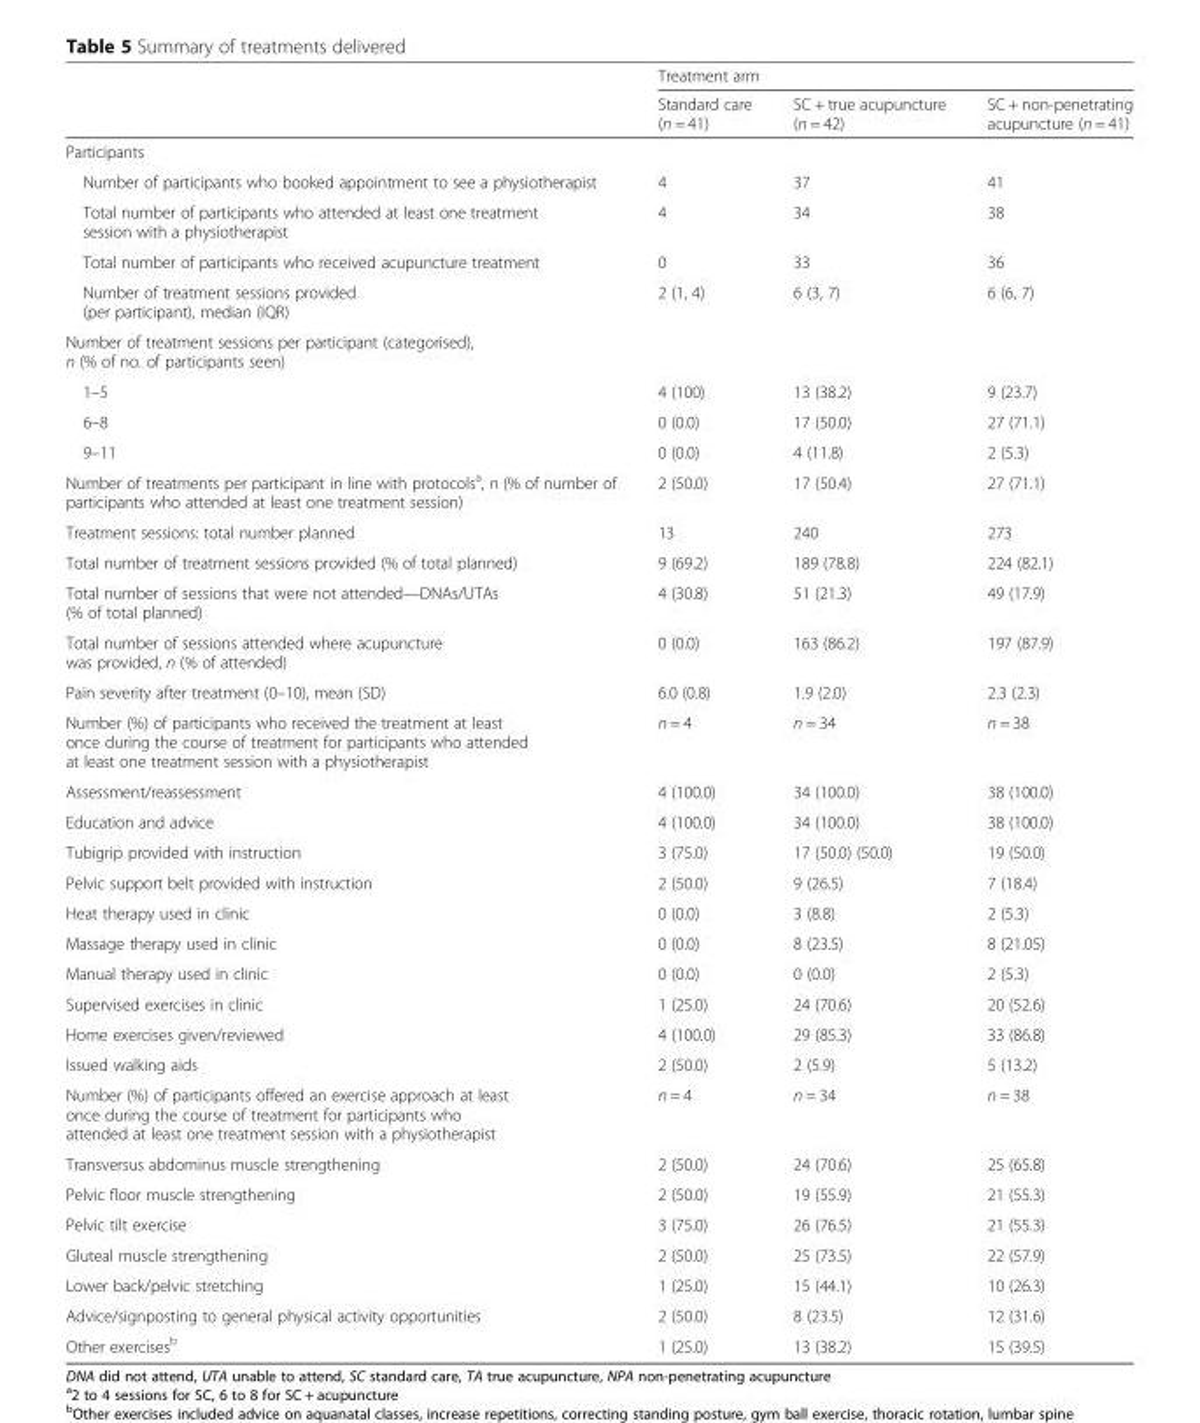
<table><thead><tr><td rowspan="2"></td><td colspan="3">Treatment arm</td></tr><tr><td>Standard care (n = 41)</td><td>SC + true acupuncture (n = 42)</td><td>SC + non-penetrating acupuncture (n = 41)</td></tr></thead><tbody><tr><td colspan="4">Participants</td></tr><tr><td>Number of participants who booked appointment to see a physiotherapist</td><td>4</td><td>37</td><td>41</td></tr><tr><td>Total number of participants who attended at least one treatment session with a physiotherapist</td><td>4</td><td>34</td><td>38</td></tr><tr><td>Total number of participants who received acupuncture treatment</td><td>0</td><td>33</td><td>36</td></tr><tr><td>Number of treatment sessions provided (per participant), median (IQR)</td><td>2 (1, 4)</td><td>6 (3, 7)</td><td>6 (6, 7)</td></tr><tr><td colspan="4">Number of treatment sessions per participant (categorised), n (% of no. of participants seen)</td></tr><tr><td>1–5</td><td>4 (100)</td><td>13 (38.2)</td><td>9 (23.7)</td></tr><tr><td>6–8</td><td>0 (0.0)</td><td>17 (50.0)</td><td>27 (71.1)</td></tr><tr><td>9–11</td><td>0 (0.0)</td><td>4 (11.8)</td><td>2 (5.3)</td></tr><tr><td>Number of treatments per participant in line with protocols<sup>a</sup>, n (% of number of participants who attended at least one treatment session)</td><td>2 (50.0)</td><td>17 (50.4)</td><td>27 (71.1)</td></tr><tr><td>Treatment sessions: total number planned</td><td>13</td><td>240</td><td>273</td></tr><tr><td>Total number of treatment sessions provided (% of total planned)</td><td>9 (69.2)</td><td>189 (78.8)</td><td>224 (82.1)</td></tr><tr><td>Total number of sessions that were not attended—DNAs/UTAs (% of total planned)</td><td>4 (30.8)</td><td>51 (21.3)</td><td>49 (17.9)</td></tr><tr><td>Total number of sessions attended where acupuncture was provided, n (% of attended)</td><td>0 (0.0)</td><td>163 (86.2)</td><td>197 (87.9)</td></tr><tr><td>Pain severity after treatment (0–10), mean (SD)</td><td>6.0 (0.8)</td><td>1.9 (2.0)</td><td>2.3 (2.3)</td></tr><tr><td>Number (%) of participants who received the treatment at least once during the course of treatment for participants who attended at least one treatment session with a physiotherapist</td><td>n = 4</td><td>n = 34</td><td>n = 38</td></tr><tr><td>Assessment/reassessment</td><td>4 (100.0)</td><td>34 (100.0)</td><td>38 (100.0)</td></tr><tr><td>Education and advice</td><td>4 (100.0)</td><td>34 (100.0)</td><td>38 (100.0)</td></tr><tr><td>Tubigrip provided with instruction</td><td>3 (75.0)</td><td>17 (50.0) (50.0)</td><td>19 (50.0)</td></tr><tr><td>Pelvic support belt provided with instruction</td><td>2 (50.0)</td><td>9 (26.5)</td><td>7 (18.4)</td></tr><tr><td>Heat therapy used in clinic</td><td>0 (0.0)</td><td>3 (8.8)</td><td>2 (5.3)</td></tr><tr><td>Massage therapy used in clinic</td><td>0 (0.0)</td><td>8 (23.5)</td><td>8 (21.05)</td></tr><tr><td>Manual therapy used in clinic</td><td>0 (0.0)</td><td>0 (0.0)</td><td>2 (5.3)</td></tr><tr><td>Supervised exercises in clinic</td><td>1 (25.0)</td><td>24 (70.6)</td><td>20 (52.6)</td></tr><tr><td>Home exercises given/reviewed</td><td>4 (100.0)</td><td>29 (85.3)</td><td>33 (86.8)</td></tr><tr><td>Issued walking aids</td><td>2 (50.0)</td><td>2 (5.9)</td><td>5 (13.2)</td></tr><tr><td>Number (%) of participants offered an exercise approach at least once during the course of treatment for participants who attended at least one treatment session with a physiotherapist</td><td>n = 4</td><td>n = 34</td><td>n = 38</td></tr><tr><td>Transversus abdominus muscle strengthening</td><td>2 (50.0)</td><td>24 (70.6)</td><td>25 (65.8)</td></tr><tr><td>Pelvic floor muscle strengthening</td><td>2 (50.0)</td><td>19 (55.9)</td><td>21 (55.3)</td></tr><tr><td>Pelvic tilt exercise</td><td>3 (75.0)</td><td>26 (76.5)</td><td>21 (55.3)</td></tr><tr><td>Gluteal muscle strengthening</td><td>2 (50.0)</td><td>25 (73.5)</td><td>22 (57.9)</td></tr><tr><td>Lower back/pelvic stretching</td><td>1 (25.0)</td><td>15 (44.1)</td><td>10 (26.3)</td></tr><tr><td>Advice/signposting to general physical activity opportunities</td><td>2 (50.0)</td><td>8 (23.5)</td><td>12 (31.6)</td></tr><tr><td>Other exercises<sup>b</sup></td><td>1 (25.0)</td><td>13 (38.2)</td><td>15 (39.5)</td></tr></tbody></table>